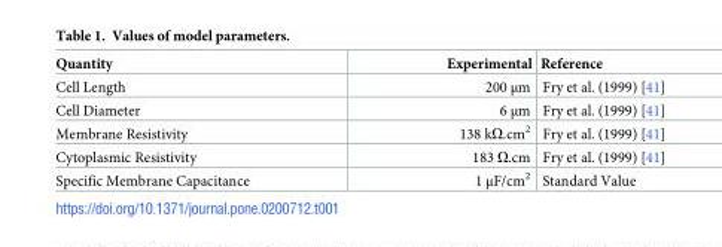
<table><thead><tr><td>Quantity</td><td>Experimental</td><td>Reference</td></tr></thead><tbody><tr><td>Cell Length</td><td>200 μm</td><td>Fry et al. (1999) [41]</td></tr><tr><td>Cell Diameter</td><td>6 μm</td><td>Fry et al. (1999) [41]</td></tr><tr><td>Membrane Resistivity</td><td>138 kΩ.cm<sup>2</sup></td><td>Fry et al. (1999) [41]</td></tr><tr><td>Cytoplasmic Resistivity</td><td>183 Ω.cm</td><td>Fry et al. (1999) [41]</td></tr><tr><td>Specific Membrane Capacitance</td><td>1 μF/cm<sup>2</sup></td><td>Standard Value</td></tr></tbody></table>